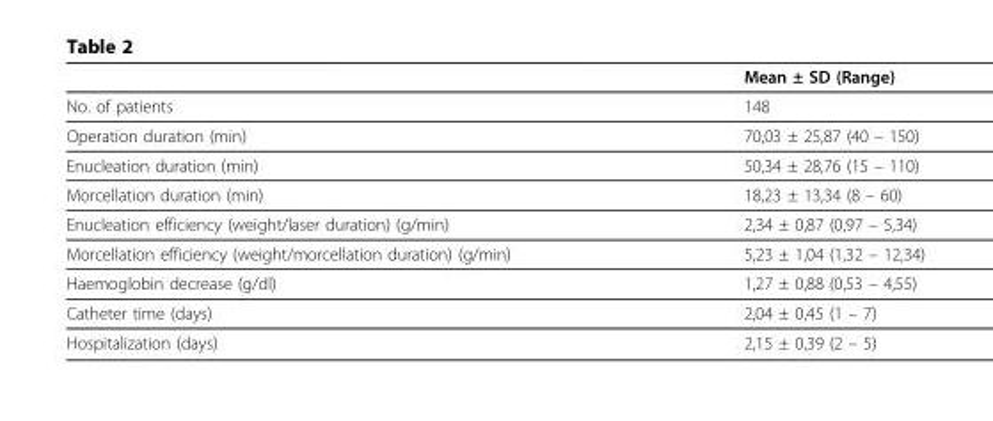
<table><thead><tr><td></td><td>Mean ± SD (Range)</td></tr></thead><tbody><tr><td>No. of patients</td><td>148</td></tr><tr><td>Operation duration (min)</td><td>70,03 ± 25,87 (40 – 150)</td></tr><tr><td>Enucleation duration (min)</td><td>50,34 ± 28,76 (15 – 110)</td></tr><tr><td>Morcellation duration (min)</td><td>18,23 ± 13,34 (8 – 60)</td></tr><tr><td>Enucleation efficiency (weight/laser duration) (g/min)</td><td>2,34 ± 0,87 (0,97 – 5,34)</td></tr><tr><td>Morcellation efficiency (weight/morcellation duration) (g/min)</td><td>5,23 ± 1,04 (1,32 – 12,34)</td></tr><tr><td>Haemoglobin decrease (g/dl)</td><td>1,27 ± 0,88 (0,53 – 4,55)</td></tr><tr><td>Catheter time (days)</td><td>2,04 ± 0,45 (1 – 7)</td></tr><tr><td>Hospitalization (days)</td><td>2,15 ± 0,39 (2 – 5)</td></tr></tbody></table>